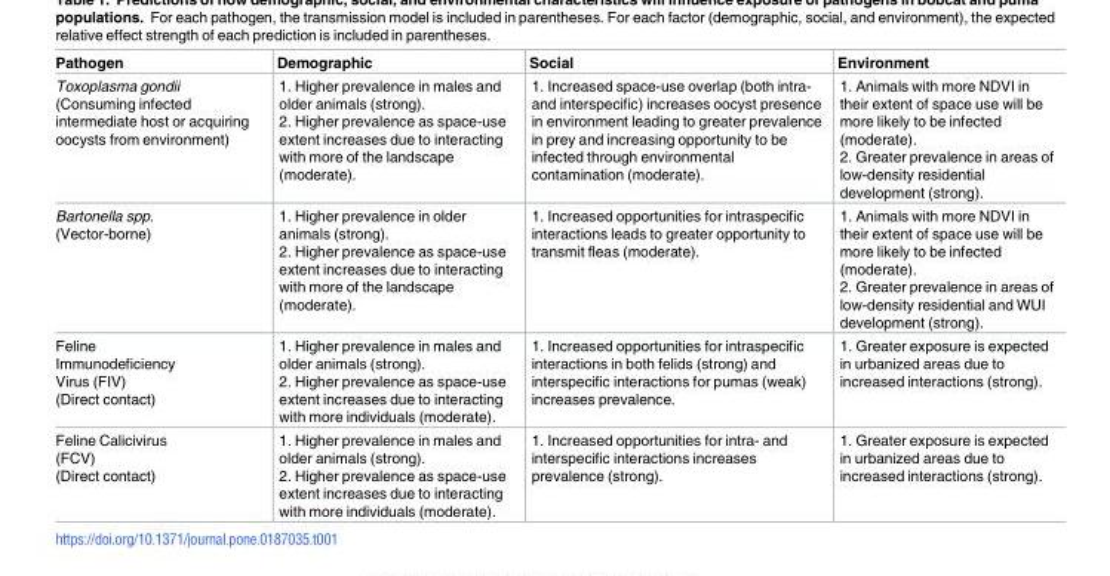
<table><thead><tr><td>Pathogen</td><td>Demographic</td><td>Social</td><td>Environment</td></tr></thead><tbody><tr><td>Toxoplasma gondii (Consuming infected intermediate host or acquiring oocysts from environment)</td><td>1. Higher prevalence in males and older animals (strong). 2. Higher prevalence as space-use extent increases due to interacting with more of the landscape (moderate).</td><td>1. Increased space-use overlap (both intra- and interspecific) increases oocyst presence in environment leading to greater prevalence in prey and increasing opportunity to be infected through environmental contamination (moderate).</td><td>1. Animals with more NDVI in their extent of space use will be more likely to be infected (moderate). 2. Greater prevalence in areas of low-density residential development (strong).</td></tr><tr><td>Bartonella spp. (Vector-borne)</td><td>1. Higher prevalence in older animals (strong). 2. Higher prevalence as space-use extent increases due to interacting with more of the landscape (moderate).</td><td>1. Increased opportunities for intraspecific interactions leads to greater opportunity to transmit fleas (moderate).</td><td>1. Animals with more NDVI in their extent of space use will be more likely to be infected (moderate). 2. Greater prevalence in areas of low-density residential and WUI development (strong).</td></tr><tr><td>Feline Immunodeficiency Virus (FIV) (Direct contact)</td><td>1. Higher prevalence in males and older animals (strong). 2. Higher prevalence as space-use extent increases due to interacting with more individuals (moderate).</td><td>1. Increased opportunities for intraspecific interactions in both felids (strong) and interspecific interactions for pumas (weak) increases prevalence.</td><td>1. Greater exposure is expected in urbanized areas due to increased interactions (strong).</td></tr><tr><td>Feline Calicivirus (FCV) (Direct contact)</td><td>1. Higher prevalence in males and older animals (strong). 2. Higher prevalence as space-use extent increases due to interacting with more individuals (moderate).</td><td>1. Increased opportunities for intra- and interspecific interactions increases prevalence (strong).</td><td>1. Greater exposure is expected in urbanized areas due to increased interactions (strong).</td></tr></tbody></table>